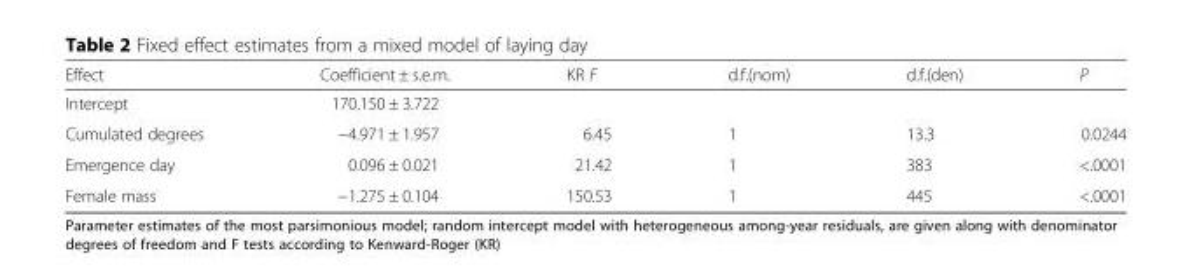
<table><thead><tr><td>Effect</td><td>Coefficient ± s.e.m.</td><td>KR F</td><td>d.f.(nom)</td><td>d.f.(den)</td><td>P</td></tr></thead><tbody><tr><td>Intercept</td><td>170.150 ± 3.722</td><td></td><td></td><td></td><td></td></tr><tr><td>Cumulated degrees</td><td>−4.971 ± 1.957</td><td>6.45</td><td>1</td><td>13.3</td><td>0.0244</td></tr><tr><td>Emergence day</td><td>0.096 ± 0.021</td><td>21.42</td><td>1</td><td>383</td><td>&lt;.0001</td></tr><tr><td>Female mass</td><td>−1.275 ± 0.104</td><td>150.53</td><td>1</td><td>445</td><td>&lt;.0001</td></tr></tbody></table>